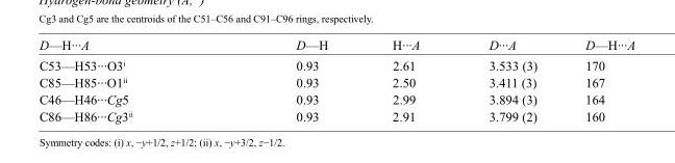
<table><tbody><tr><td>D—H···A</td><td>D—H</td><td>H···A</td><td>D···A</td><td>D—H···A</td></tr><tr><td>C53—H53···O3<sup>i</sup></td><td>0.93</td><td>2.61</td><td>3.533 (3)</td><td>170</td></tr><tr><td>C85—H85···O1<sup>ii</sup></td><td>0.93</td><td>2.50</td><td>3.411 (3)</td><td>167</td></tr><tr><td>C46—H46···Cg5</td><td>0.93</td><td>2.99</td><td>3.894 (3)</td><td>164</td></tr><tr><td>C86—H86···Cg3<sup>ii</sup></td><td>0.93</td><td>2.91</td><td>3.799 (2)</td><td>160</td></tr></tbody></table>